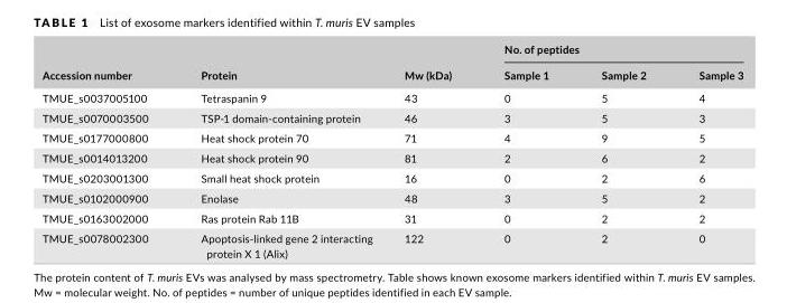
<table><thead><tr><td rowspan="2">Accession number</td><td rowspan="2">Protein</td><td rowspan="2">Mw (kDa)</td><td colspan="3">No. of peptides</td></tr><tr><td>Sample 1</td><td>Sample 2</td><td>Sample 3</td></tr></thead><tbody><tr><td>TMUE_s0037005100</td><td>Tetraspanin 9</td><td>43</td><td>0</td><td>5</td><td>4</td></tr><tr><td>TMUE_s0070003500</td><td>TSP- 1 domain- containing protein</td><td>46</td><td>3</td><td>5</td><td>3</td></tr><tr><td>TMUE_s0177000800</td><td>Heat shock protein 70</td><td>71</td><td>4</td><td>9</td><td>5</td></tr><tr><td>TMUE_s0014013200</td><td>Heat shock protein 90</td><td>81</td><td>2</td><td>6</td><td>2</td></tr><tr><td>TMUE_s0203001300</td><td>Small heat shock protein</td><td>16</td><td>0</td><td>2</td><td>6</td></tr><tr><td>TMUE_s0102000900</td><td>Enolase</td><td>48</td><td>3</td><td>5</td><td>2</td></tr><tr><td>TMUE_s0163002000</td><td>Ras protein Rab 11B</td><td>31</td><td>0</td><td>2</td><td>2</td></tr><tr><td>TMUE_s0078002300</td><td>Apoptosis- linked gene 2 interacting protein X 1 (Alix)</td><td>122</td><td>0</td><td>2</td><td>0</td></tr></tbody></table>